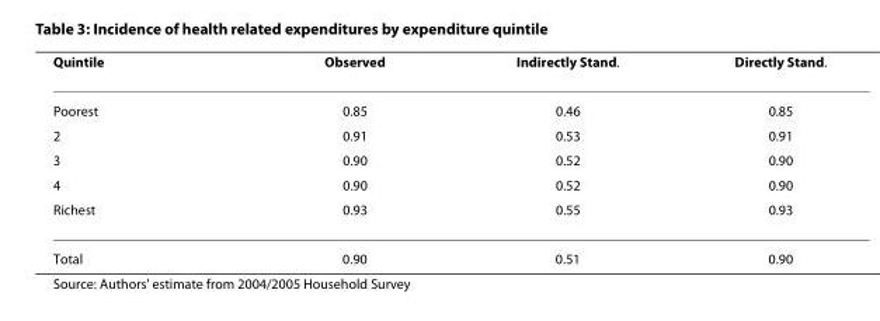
<table><thead><tr><td>Quintile</td><td>Observed</td><td>Indirectly Stand.</td><td>Directly Stand.</td></tr></thead><tbody><tr><td>Poorest</td><td>0.85</td><td>0.46</td><td>0.85</td></tr><tr><td>2</td><td>0.91</td><td>0.53</td><td>0.91</td></tr><tr><td>3</td><td>0.90</td><td>0.52</td><td>0.90</td></tr><tr><td>4</td><td>0.90</td><td>0.52</td><td>0.90</td></tr><tr><td>Richest</td><td>0.93</td><td>0.55</td><td>0.93</td></tr><tr><td>Total</td><td>0.90</td><td>0.51</td><td>0.90</td></tr></tbody></table>